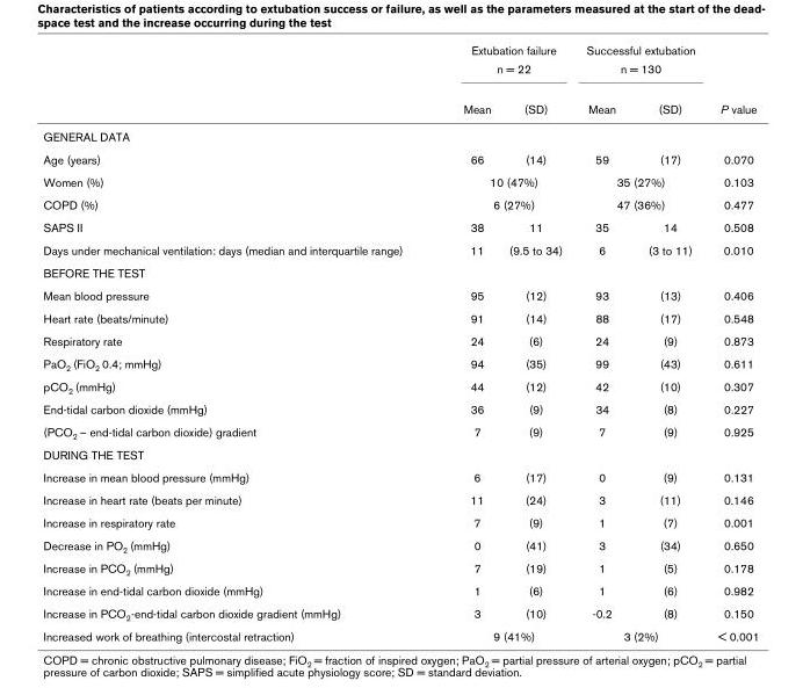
<table><thead><tr><td rowspan="3"></td><td rowspan="2" colspan="2">Extubation failure n = 22</td><td rowspan="2" colspan="2">Successful extubation n = 130</td><td rowspan="3">P value</td></tr><tr></tr><tr><td>Mean</td><td>(SD)</td><td>Mean</td><td>(SD)</td></tr></thead><tbody><tr><td colspan="6">GENERAL DATA</td></tr><tr><td>Age (years)</td><td>66</td><td>(14)</td><td>59</td><td>(17)</td><td>0.070</td></tr><tr><td>Women (%)</td><td colspan="2">10 (47%)</td><td colspan="2">35 (27%)</td><td>0.103</td></tr><tr><td>COPD (%)</td><td colspan="2">6 (27%)</td><td colspan="2">47 (36%)</td><td>0.477</td></tr><tr><td>SAPS II</td><td>38</td><td>11</td><td>35</td><td>14</td><td>0.508</td></tr><tr><td>Days under mechanical ventilation: days (median and interquartile range)</td><td>11</td><td>(9.5 to 34)</td><td>6</td><td>(3 to 11)</td><td>0.010</td></tr><tr><td colspan="6">BEFORE THE TEST</td></tr><tr><td>Mean blood pressure</td><td>95</td><td>(12)</td><td>93</td><td>(13)</td><td>0.406</td></tr><tr><td>Heart rate (beats/minute)</td><td>91</td><td>(14)</td><td>88</td><td>(17)</td><td>0.548</td></tr><tr><td>Respiratory rate</td><td>24</td><td>(6)</td><td>24</td><td>(9)</td><td>0.873</td></tr><tr><td>PaO<sub>2</sub> (FiO<sub>2</sub> 0.4; mmHg)</td><td>94</td><td>(35)</td><td>99</td><td>(43)</td><td>0.611</td></tr><tr><td>pCO<sub>2</sub> (mmHg)</td><td>44</td><td>(12)</td><td>42</td><td>(10)</td><td>0.307</td></tr><tr><td>End-tidal carbon dioxide (mmHg)</td><td>36</td><td>(9)</td><td>34</td><td>(8)</td><td>0.227</td></tr><tr><td>(PCO<sub>2</sub> – end-tidal carbon dioxide) gradient</td><td>7</td><td>(9)</td><td>7</td><td>(9)</td><td>0.925</td></tr><tr><td colspan="6">DURING THE TEST</td></tr><tr><td>Increase in mean blood pressure (mmHg)</td><td>6</td><td>(17)</td><td>0</td><td>(9)</td><td>0.131</td></tr><tr><td>Increase in heart rate (beats per minute)</td><td>11</td><td>(24)</td><td>3</td><td>(11)</td><td>0.146</td></tr><tr><td>Increase in respiratory rate</td><td>7</td><td>(9)</td><td>1</td><td>(7)</td><td>0.001</td></tr><tr><td>Decrease in PO<sub>2</sub> (mmHg)</td><td>0</td><td>(41)</td><td>3</td><td>(34)</td><td>0.650</td></tr><tr><td>Increase in PCO<sub>2</sub> (mmHg)</td><td>7</td><td>(19)</td><td>1</td><td>(5)</td><td>0.178</td></tr><tr><td>Increase in end-tidal carbon dioxide (mmHg)</td><td>1</td><td>(6)</td><td>1</td><td>(6)</td><td>0.982</td></tr><tr><td>Increase in PCO<sub>2</sub>-end-tidal carbon dioxide gradient (mmHg)</td><td>3</td><td>(10)</td><td>-0.2</td><td>(8)</td><td>0.150</td></tr><tr><td>Increased work of breathing (intercostal retraction)</td><td colspan="2">9 (41%)</td><td colspan="2">3 (2%)</td><td>&lt; 0.001</td></tr></tbody></table>